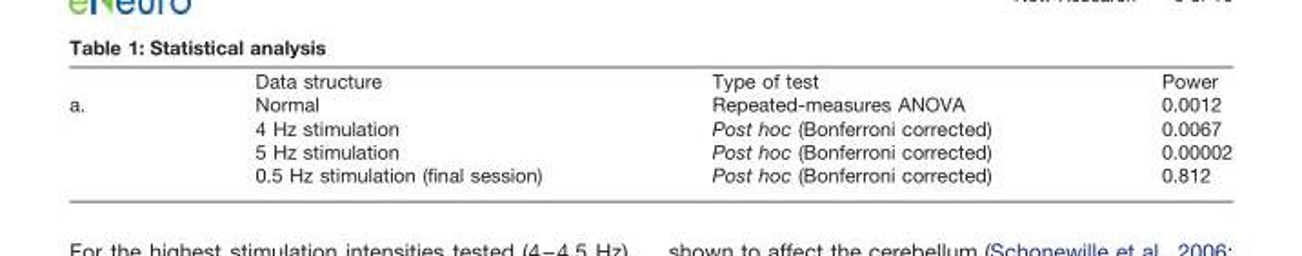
<table><thead><tr><td></td><td>Data structure</td><td>Type of test</td><td>Power</td></tr></thead><tbody><tr><td rowspan="4">a.</td><td>Normal</td><td>Repeated-measures ANOVA</td><td>0.0012</td></tr><tr><td>4 Hz stimulation</td><td>Post hoc (Bonferroni corrected)</td><td>0.0067</td></tr><tr><td>5 Hz stimulation</td><td>Post hoc (Bonferroni corrected)</td><td>0.00002</td></tr><tr><td>0.5 Hz stimulation (final session)</td><td>Post hoc (Bonferroni corrected)</td><td>0.812</td></tr></tbody></table>